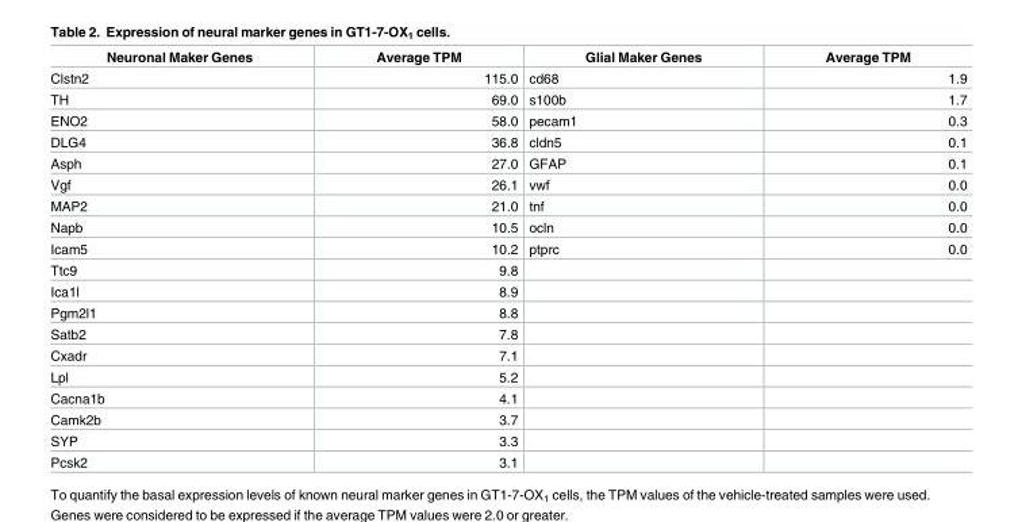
<table><thead><tr><td>Neuronal Maker Genes</td><td>Average TPM</td><td>Glial Maker Genes</td><td>Average TPM</td></tr></thead><tbody><tr><td>Clstn2</td><td>115.0</td><td>cd68</td><td>1.9</td></tr><tr><td>TH</td><td>69.0</td><td>s100b</td><td>1.7</td></tr><tr><td>ENO2</td><td>58.0</td><td>pecam1</td><td>0.3</td></tr><tr><td>DLG4</td><td>36.8</td><td>cldn5</td><td>0.1</td></tr><tr><td>Asph</td><td>27.0</td><td>GFAP</td><td>0.1</td></tr><tr><td>Vgf</td><td>26.1</td><td>vwf</td><td>0.0</td></tr><tr><td>MAP2</td><td>21.0</td><td>tnf</td><td>0.0</td></tr><tr><td>Napb</td><td>10.5</td><td>ocln</td><td>0.0</td></tr><tr><td>Icam5</td><td>10.2</td><td>ptprc</td><td>0.0</td></tr><tr><td>Ttc9</td><td>9.8</td><td></td><td></td></tr><tr><td>Ica1l</td><td>8.9</td><td></td><td></td></tr><tr><td>Pgm2l1</td><td>8.8</td><td></td><td></td></tr><tr><td>Satb2</td><td>7.8</td><td></td><td></td></tr><tr><td>Cxadr</td><td>7.1</td><td></td><td></td></tr><tr><td>Lpl</td><td>5.2</td><td></td><td></td></tr><tr><td>Cacna1b</td><td>4.1</td><td></td><td></td></tr><tr><td>Camk2b</td><td>3.7</td><td></td><td></td></tr><tr><td>SYP</td><td>3.3</td><td></td><td></td></tr><tr><td>Pcsk2</td><td>3.1</td><td></td><td></td></tr></tbody></table>